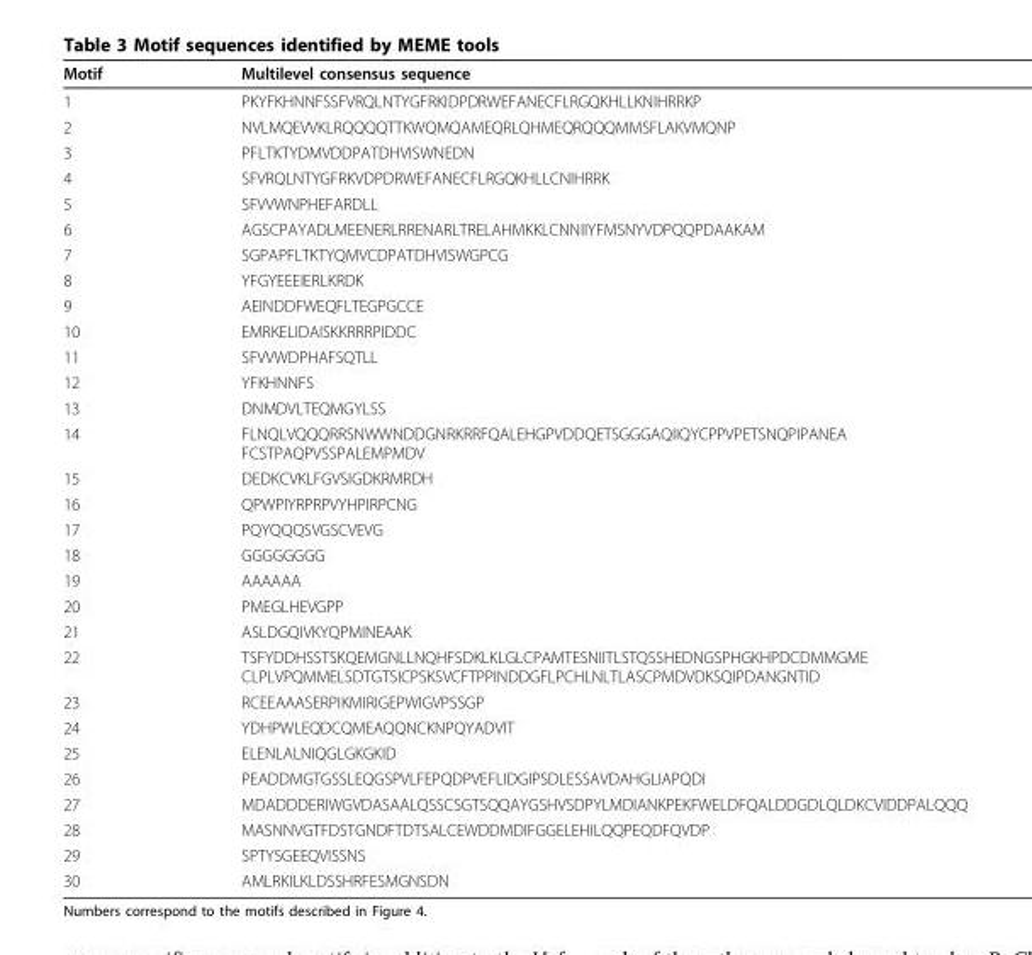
<table><thead><tr><td>Motif</td><td>Multilevel consensus sequence</td></tr></thead><tbody><tr><td>1</td><td>PKYFKHNNFSSFVRQLNTYGFRKIDPDRWEFANECFLRGQKHLLKNIHRRKP</td></tr><tr><td>2</td><td>NVLMQEVVKLRQQQQTTKWQMQAMEQRLQHMEQRQQQMMSFLAKVMQNP</td></tr><tr><td>3</td><td>PFLTKTYDMVDDPATDHVISWNEDN</td></tr><tr><td>4</td><td>SFVRQLNTYGFRKVDPDRWEFANECFLRGQKHLLCNIHRRK</td></tr><tr><td>5</td><td>SFVVWNPHEFARDLL</td></tr><tr><td>6</td><td>AGSCPAYADLMEENERLRRENARLTRELAHMKKLCNNIIYFMSNYVDPQQPDAAKAM</td></tr><tr><td>7</td><td>SGPAPFLTKTYQMVCDPATDHVISWGPCG</td></tr><tr><td>8</td><td>YFGYEEEIERLKRDK</td></tr><tr><td>9</td><td>AEINDDFWEQFLTEGPGCCE</td></tr><tr><td>10</td><td>EMRKELIDAISKKRRRPIDDC</td></tr><tr><td>11</td><td>SFVVWDPHAFSQTLL</td></tr><tr><td>12</td><td>YFKHNNFS</td></tr><tr><td>13</td><td>DNMDVLTEQMGYLSS</td></tr><tr><td>14</td><td>FLNQLVQQQRRSNWWNDDGNRKRRFQALEHGPVDDQETSGGGAQIIQYCPPVPETSNQPIPANEA FCSTPAQPVSSPALEMPMDV</td></tr><tr><td>15</td><td>DEDKCVKLFGVSIGDKRMRDH</td></tr><tr><td>16</td><td>QPWPIYRPRPVYHPIRPCNG</td></tr><tr><td>17</td><td>PQYQQQSVGSCVEVG</td></tr><tr><td>18</td><td>GGGGGGGG</td></tr><tr><td>19</td><td>AAAAAA</td></tr><tr><td>20</td><td>PMEGLHEVGPP</td></tr><tr><td>21</td><td>ASLDGQIVKYQPMINEAAK</td></tr><tr><td>22</td><td>TSFYDDHSSTSKQEMGNLLNQHFSDKLKLGLCPAMTESNIITLSTQSSHEDNGSPHGKHPDCDMMGME CLPLVPQMMELSDTGTSICPSKSVCFTPPINDDGFLPCHLNLTLASCPMDVDKSQIPDANGNTID</td></tr><tr><td>23</td><td>RCEEAAASERPIKMIRIGEPWIGVPSSGP</td></tr><tr><td>24</td><td>YDHPWLEQDCQMEAQQNCKNPQYADVIT</td></tr><tr><td>25</td><td>ELENLALNIQGLGKGKID</td></tr><tr><td>26</td><td>PEADDMGTGSSLEQGSPVLFEPQDPVEFLIDGIPSDLESSAVDAHGLIAPQDI</td></tr><tr><td>27</td><td>MDADDDERIWGVDASAALQSSCSGTSQQAYGSHVSDPYLMDIANKPEKFWELDFQALDDGDLQLDKCVIDDPALQQQ</td></tr><tr><td>28</td><td>MASNNVGTFDSTGNDFTDTSALCEWDDMDIFGGELEHILQQPEQDFQVDP</td></tr><tr><td>29</td><td>SPTYSGEEQVISSNS</td></tr><tr><td>30</td><td>AMLRKILKLDSSHRFESMGNSDN</td></tr></tbody></table>